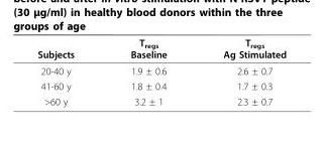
<table><thead><tr><td>Subjects</td><td>T<sub>regs</sub> Baseline</td><td>T<sub>regs</sub> Ag Stimulated</td></tr></thead><tbody><tr><td>20-40 y</td><td>1.9 ± 0.6</td><td>2.6 ± 0.7</td></tr><tr><td>41-60 y</td><td>1.8 ± 0.4</td><td>1.7 ± 0.3</td></tr><tr><td>&gt;60 y</td><td>3.2 ± 1</td><td>2.3 ± 0.7</td></tr></tbody></table>